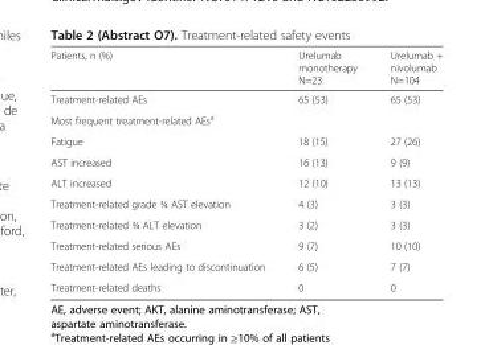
<table><thead><tr><td>Patients, n (%)</td><td>Urelumab monotherapy N=23</td><td>Urelumab + nivolumab N=104</td></tr></thead><tbody><tr><td>Treatment-related AEs</td><td>65 (53)</td><td>65 (53)</td></tr><tr><td colspan="3">Most frequent treatment-related AEs<sup>a</sup></td></tr><tr><td>Fatigue</td><td>18 (15)</td><td>27 (26)</td></tr><tr><td>AST increased</td><td>16 (13)</td><td>9 (9)</td></tr><tr><td>ALT increased</td><td>12 (10)</td><td>13 (13)</td></tr><tr><td>Treatment-related grade ¾ AST elevation</td><td>4 (3)</td><td>3 (3)</td></tr><tr><td>Treatment-related ¾ ALT elevation</td><td>3 (2)</td><td>3 (3)</td></tr><tr><td>Treatment-related serious AEs</td><td>9 (7)</td><td>10 (10)</td></tr><tr><td>Treatment-related AEs leading to discontinuation</td><td>6 (5)</td><td>7 (7)</td></tr><tr><td>Treatment-related deaths</td><td>0</td><td>0</td></tr></tbody></table>